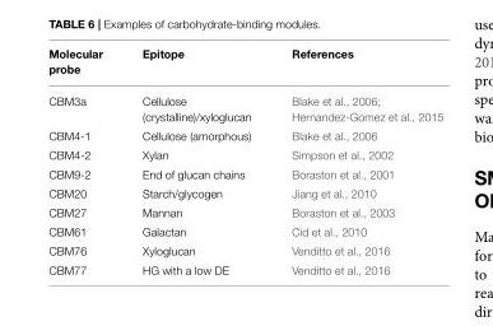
<table><thead><tr><td>Molecular probe</td><td>Epitope</td><td>References</td></tr></thead><tbody><tr><td>CBM3a</td><td>Cellulose (crystalline)/xyloglucan</td><td>Blake et al., 2006; Hernandez-Gomez et al., 2015</td></tr><tr><td>CBM4-1</td><td>Cellulose (amorphous)</td><td>Blake et al., 2006</td></tr><tr><td>CBM4-2</td><td>Xylan</td><td>Simpson et al., 2002</td></tr><tr><td>CBM9-2</td><td>End of glucan chains</td><td>Boraston et al., 2001</td></tr><tr><td>CBM20</td><td>Starch/glycogen</td><td>Jiang et al., 2010</td></tr><tr><td>CBM27</td><td>Mannan</td><td>Boraston et al., 2003</td></tr><tr><td>CBM61</td><td>Galactan</td><td>Cid et al., 2010</td></tr><tr><td>CBM76</td><td>Xyloglucan</td><td>Venditto et al., 2016</td></tr><tr><td>CBM77</td><td>HG with a low DE</td><td>Venditto et al., 2016</td></tr></tbody></table>